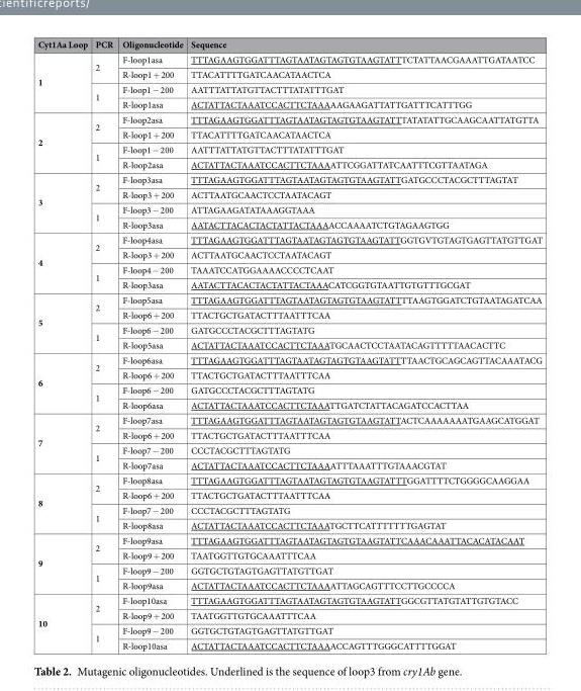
<table><thead><tr><td>Cyt1Aa Loop</td><td>PCR</td><td>Oligonucleotide</td><td>Sequence</td></tr></thead><tbody><tr><td rowspan="4">1</td><td rowspan="2">2</td><td>F-loop1asa</td><td>TTTAGAAGTGGATTTAGTAATAGTAGTGTAAGTATTTCTATTAACGAAATTGATAATCC</td></tr><tr><td>R-loop1 + 200</td><td>TTACATTTTGATCAACATAACTCA</td></tr><tr><td rowspan="2">1</td><td>F-loop1 − 200</td><td>AATTTATTATGTTACTTTATATTTGAT</td></tr><tr><td>R-loop1asa</td><td>ACTATTACTAAATCCACTTCTAAAAAGAAGATTATTGATTTCATTTGG</td></tr><tr><td rowspan="4">2</td><td rowspan="2">2</td><td>F-loop2asa</td><td>TTTAGAAGTGGATTTAGTAATAGTAGTGTAAGTATTTATATATTGCAAGCAATTATGTTA</td></tr><tr><td>R-loop1 + 200</td><td>TTACATTTTGATCAACATAACTCA</td></tr><tr><td rowspan="2">1</td><td>F-loop1 − 200</td><td>AATTTATTATGTTACTTTATATTTGAT</td></tr><tr><td>R-loop2asa</td><td>ACTATTACTAAATCCACTTCTAAAATTCGGATTATCAATTTCGTTAATAGA</td></tr><tr><td rowspan="4">3</td><td rowspan="2">2</td><td>F-loop3asa</td><td>TTTAGAAGTGGATTTAGTAATAGTAGTGTAAGTATTGATGCCCTACGCTTTAGTAT</td></tr><tr><td>R-loop3 + 200</td><td>ACTTAATGCAACTCCTAATACAGT</td></tr><tr><td rowspan="2">1</td><td>F-loop3 − 200</td><td>ATTAGAAGATATAAAGGTAAA</td></tr><tr><td>R-loop3asa</td><td>AATACTTACACTACTATTACTAAAACCAAAATCTGTAGAAGTGG</td></tr><tr><td rowspan="4">4</td><td rowspan="2">2</td><td>F-loop4asa</td><td>TTTAGAAGTGGATTTAGTAATAGTAGTGTAAGTATTGGTGVTGTAGTGAGTTATGTTGAT</td></tr><tr><td>R-loop3 + 200</td><td>ACTTAATGCAACTCCTAATACAGT</td></tr><tr><td rowspan="2">1</td><td>F-loop4 − 200</td><td>TAAATCCATGGAAAACCCCTCAAT</td></tr><tr><td>R-loop3asa</td><td>AATACTTACACTACTATTACTAAACATCGGTGTAATTGTGTTTGCGAT</td></tr><tr><td rowspan="4">5</td><td rowspan="2">2</td><td>F-loop5asa</td><td>TTTAGAAGTGGATTTAGTAATAGTAGTGTAAGTATTTTAAGTGGATCTGTAATAGATCAA</td></tr><tr><td>R-loop6 + 200</td><td>TTACTGCTGATACTTTAATTTCAA</td></tr><tr><td rowspan="2">1</td><td>F-loop6 − 200</td><td>GATGCCCTACGCTTTAGTATG</td></tr><tr><td>R-loop5asa</td><td>ACTATTACTAAATCCACTTCTAAATGCAACTCCTAATACAGTTTTTAACACTTC</td></tr><tr><td rowspan="4">6</td><td rowspan="2">2</td><td>F-loop6asa</td><td>TTTAGAAGTGGATTTAGTAATAGTAGTGTAAGTATTTTAACTGCAGCAGTTACAAATACG</td></tr><tr><td>R-loop6 + 200</td><td>TTACTGCTGATACTTTAATTTCAA</td></tr><tr><td rowspan="2">1</td><td>F-loop6 − 200</td><td>GATGCCCTACGCTTTAGTATG</td></tr><tr><td>R-loop6asa</td><td>ACTATTACTAAATCCACTTCTAAATTGATCTATTACAGATCCACTTAA</td></tr><tr><td rowspan="4">7</td><td rowspan="2">2</td><td>F-loop7asa</td><td>TTTAGAAGTGGATTTAGTAATAGTAGTGTAAGTATTACTCAAAAAAATGAAGCATGGAT</td></tr><tr><td>R-loop6 + 200</td><td>TTACTGCTGATACTTTAATTTCAA</td></tr><tr><td rowspan="2">1</td><td>F-loop7 − 200</td><td>CCCTACGCTTTAGTATG</td></tr><tr><td>R-loop7asa</td><td>ACTATTACTAAATCCACTTCTAAAATTTAAATTTGTAAACGTAT</td></tr><tr><td rowspan="4">8</td><td rowspan="2">2</td><td>F-loop8asa</td><td>TTTAGAAGTGGATTTAGTAATAGTAGTGTAAGTATTTGGATTTTCTGGGGCAAGGAA</td></tr><tr><td>R-loop6 + 200</td><td>TTACTGCTGATACTTTAATTTCAA</td></tr><tr><td rowspan="2">1</td><td>F-loop7 − 200</td><td>CCCTACGCTTTAGTATG</td></tr><tr><td>R-loop8asa</td><td>ACTATTACTAAATCCACTTCTAAATGCTTCATTTTTTTGAGTAT</td></tr><tr><td rowspan="4">9</td><td rowspan="2">2</td><td>F-loop9asa</td><td>TTTAGAAGTGGATTTAGTAATAGTAGTGTAAGTATTCAAACAAATTACACATACAAT</td></tr><tr><td>R-loop9 + 200</td><td>TAATGGTTGTGCAAATTTCAA</td></tr><tr><td rowspan="2">1</td><td>F-loop9 − 200</td><td>GGTGCTGTAGTGAGTTATGTTGAT</td></tr><tr><td>R-loop9asa</td><td>ACTATTACTAAATCCACTTCTAAAATTAGCAGTTTCCTTGCCCCA</td></tr><tr><td rowspan="4">10</td><td rowspan="2">2</td><td>F-loop10asa</td><td>TTTAGAAGTGGATTTAGTAATAGTAGTGTAAGTATTGGCGTTATGTATTGTGTACC</td></tr><tr><td>R-loop9 + 200</td><td>TAATGGTTGTGCAAATTTCAA</td></tr><tr><td rowspan="2">1</td><td>F-loop9 − 200</td><td>GGTGCTGTAGTGAGTTATGTTGAT</td></tr><tr><td>R-loop10asa</td><td>ACTATTACTAAATCCACTTCTAAAACCAGTTTGGGCATTTTGGAT</td></tr></tbody></table>